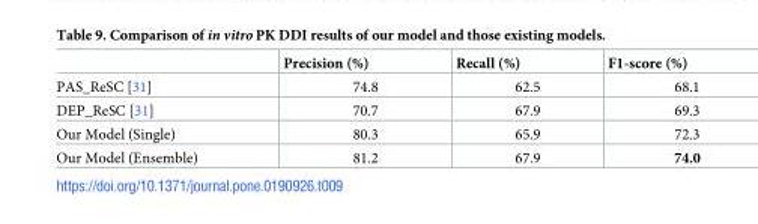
<table><thead><tr><td></td><td>Precision (%)</td><td>Recall (%)</td><td>F1-score (%)</td></tr></thead><tbody><tr><td>PAS_ReSC [31]</td><td>74.8</td><td>62.5</td><td>68.1</td></tr><tr><td>DEP_ReSC [31]</td><td>70.7</td><td>67.9</td><td>69.3</td></tr><tr><td>Our Model (Single)</td><td>80.3</td><td>65.9</td><td>72.3</td></tr><tr><td>Our Model (Ensemble)</td><td>81.2</td><td>67.9</td><td>74.0</td></tr></tbody></table>